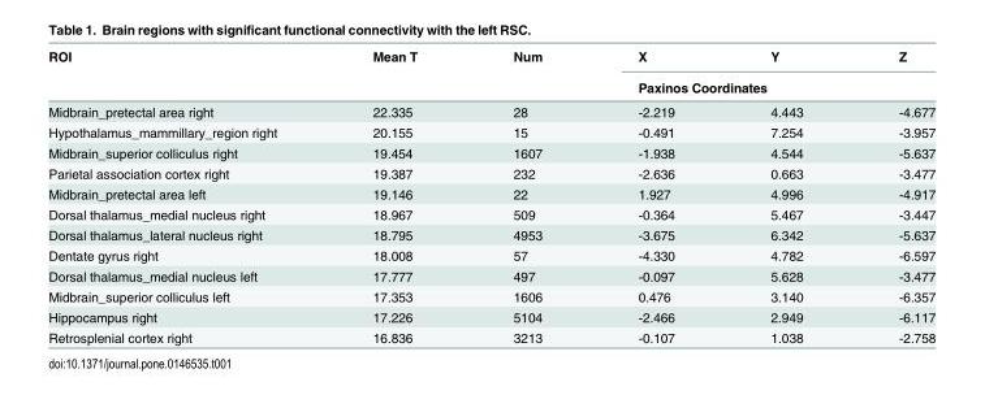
<table><thead><tr><td rowspan="2">ROI</td><td rowspan="2">Mean T</td><td rowspan="2">Num</td><td>X</td><td>Y</td><td>Z</td></tr><tr><td colspan="3">Paxinos Coordinates</td></tr></thead><tbody><tr><td>Midbrain_pretectal area right</td><td>22.335</td><td>28</td><td>-2.219</td><td>4.443</td><td>-4.677</td></tr><tr><td>Hypothalamus_mammillary_region right</td><td>20.155</td><td>15</td><td>-0.491</td><td>7.254</td><td>-3.957</td></tr><tr><td>Midbrain_superior colliculus right</td><td>19.454</td><td>1607</td><td>-1.938</td><td>4.544</td><td>-5.637</td></tr><tr><td>Parietal association cortex right</td><td>19.387</td><td>232</td><td>-2.636</td><td>0.663</td><td>-3.477</td></tr><tr><td>Midbrain_pretectal area left</td><td>19.146</td><td>22</td><td>1.927</td><td>4.996</td><td>-4.917</td></tr><tr><td>Dorsal thalamus_medial nucleus right</td><td>18.967</td><td>509</td><td>-0.364</td><td>5.467</td><td>-3.447</td></tr><tr><td>Dorsal thalamus_lateral nucleus right</td><td>18.795</td><td>4953</td><td>-3.675</td><td>6.342</td><td>-5.637</td></tr><tr><td>Dentate gyrus right</td><td>18.008</td><td>57</td><td>-4.330</td><td>4.782</td><td>-6.597</td></tr><tr><td>Dorsal thalamus_medial nucleus left</td><td>17.777</td><td>497</td><td>-0.097</td><td>5.628</td><td>-3.477</td></tr><tr><td>Midbrain_superior colliculus left</td><td>17.353</td><td>1606</td><td>0.476</td><td>3.140</td><td>-6.357</td></tr><tr><td>Hippocampus right</td><td>17.226</td><td>5104</td><td>-2.466</td><td>2.949</td><td>-6.117</td></tr><tr><td>Retrosplenial cortex right</td><td>16.836</td><td>3213</td><td>-0.107</td><td>1.038</td><td>-2.758</td></tr></tbody></table>